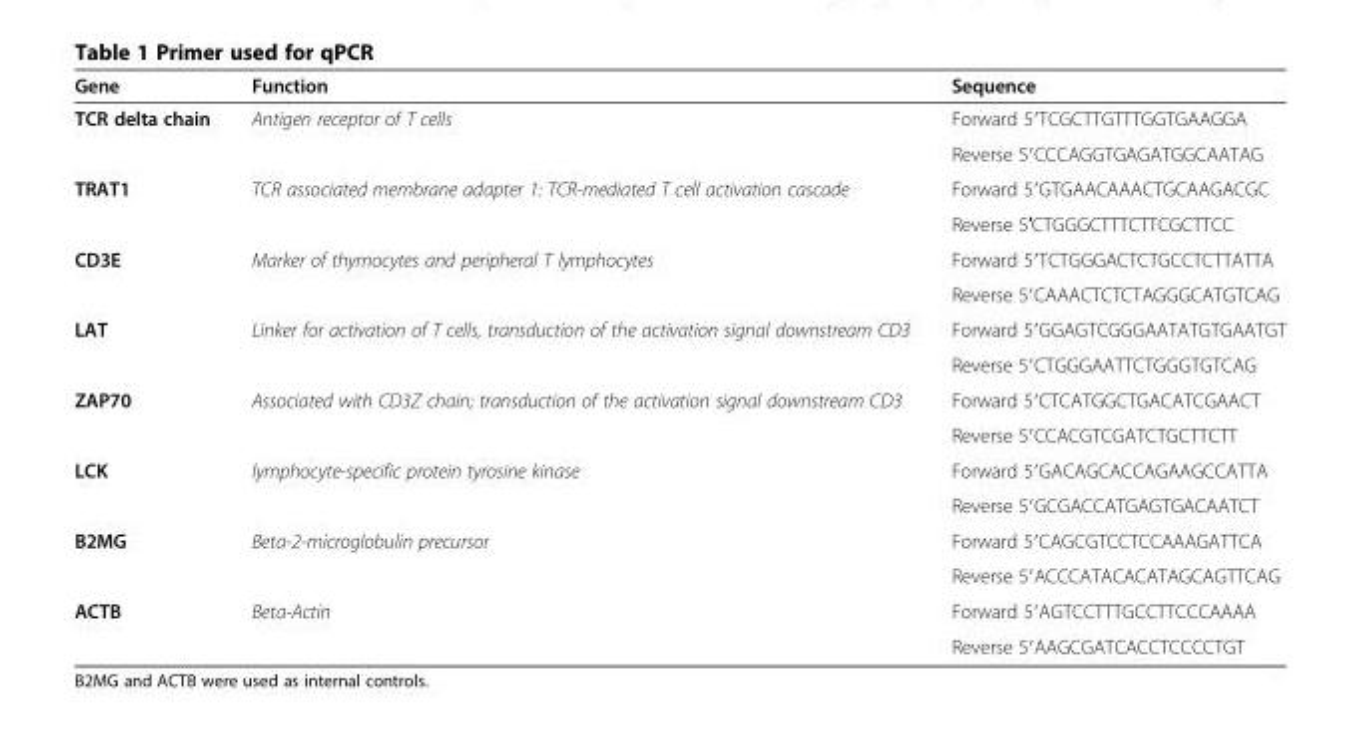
<table><thead><tr><td>Gene</td><td>Function</td><td>Sequence</td></tr></thead><tbody><tr><td rowspan="2">TCR delta chain</td><td rowspan="2">Antigen receptor of T cells</td><td>Forward 5′TCGCTTGTTTGGTGAAGGA</td></tr><tr><td>Reverse 5′CCCAGGTGAGATGGCAATAG</td></tr><tr><td rowspan="2">TRAT1</td><td rowspan="2">TCR associated membrane adapter 1: TCR-mediated T cell activation cascade</td><td>Forward 5′GTGAACAAACTGCAAGACGC</td></tr><tr><td>Reverse 5′CTGGGCTTTCTTCGCTTCC</td></tr><tr><td rowspan="2">CD3E</td><td rowspan="2">Marker of thymocytes and peripheral T lymphocytes</td><td>Forward 5′TCTGGGACTCTGCCTCTTATTA</td></tr><tr><td>Reverse 5′CAAACTCTCTAGGGCATGTCAG</td></tr><tr><td rowspan="2">LAT</td><td rowspan="2">Linker for activation of T cells, transduction of the activation signal downstream CD3</td><td>Forward 5′GGAGTCGGGAATATGTGAATGT</td></tr><tr><td>Reverse 5′CTGGGAATTCTGGGTGTCAG</td></tr><tr><td rowspan="2">ZAP70</td><td rowspan="2">Associated with CD3Z chain; transduction of the activation signal downstream CD3</td><td>Forward 5′CTCATGGCTGACATCGAACT</td></tr><tr><td>Reverse 5′CCACGTCGATCTGCTTCTT</td></tr><tr><td rowspan="2">LCK</td><td rowspan="2">lymphocyte-specific protein tyrosine kinase</td><td>Forward 5′GACAGCACCAGAAGCCATTA</td></tr><tr><td>Reverse 5′GCGACCATGAGTGACAATCT</td></tr><tr><td rowspan="2">B2MG</td><td rowspan="2">Beta-2-microglobulin precursor</td><td>Forward 5′CAGCGTCCTCCAAAGATTCA</td></tr><tr><td>Reverse 5′ACCCATACACATAGCAGTTCAG</td></tr><tr><td rowspan="2">ACTB</td><td rowspan="2">Beta-Actin</td><td>Forward 5′AGTCCTTTGCCTTCCCAAAA</td></tr><tr><td>Reverse 5′AAGCGATCACCTCCCCTGT</td></tr></tbody></table>